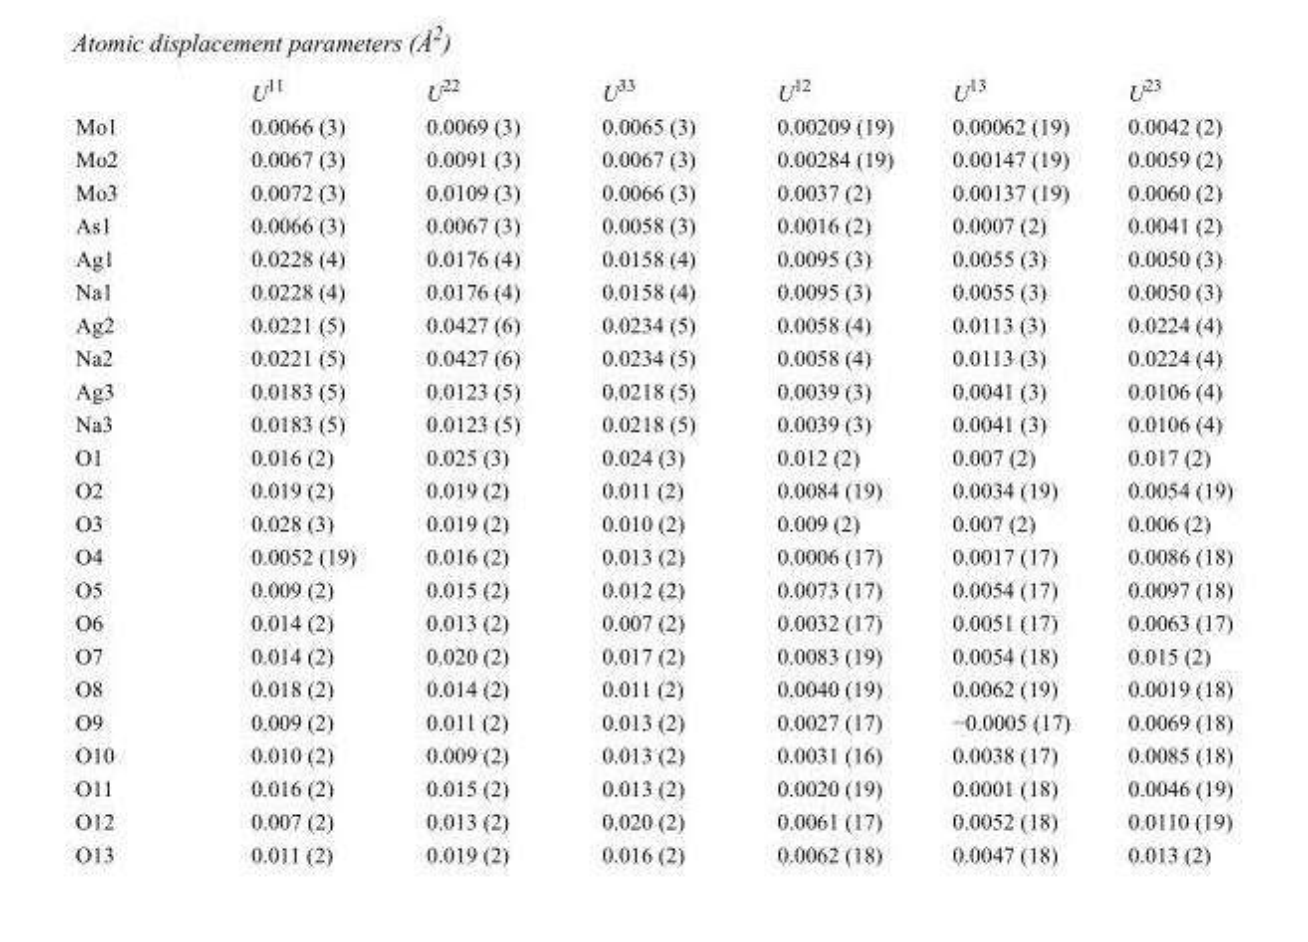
<table><thead><tr><td></td><td>U<sup>11</sup></td><td>U<sup>22</sup></td><td>U<sup>33</sup></td><td>U<sup>12</sup></td><td>U<sup>13</sup></td><td>U<sup>23</sup></td></tr></thead><tbody><tr><td>Mo1</td><td>0.0066 (3)</td><td>0.0069 (3)</td><td>0.0065 (3)</td><td>0.00209 (19)</td><td>0.00062 (19)</td><td>0.0042 (2)</td></tr><tr><td>Mo2</td><td>0.0067 (3)</td><td>0.0091 (3)</td><td>0.0067 (3)</td><td>0.00284 (19)</td><td>0.00147 (19)</td><td>0.0059 (2)</td></tr><tr><td>Mo3</td><td>0.0072 (3)</td><td>0.0109 (3)</td><td>0.0066 (3)</td><td>0.0037 (2)</td><td>0.00137 (19)</td><td>0.0060 (2)</td></tr><tr><td>As1</td><td>0.0066 (3)</td><td>0.0067 (3)</td><td>0.0058 (3)</td><td>0.0016 (2)</td><td>0.0007 (2)</td><td>0.0041 (2)</td></tr><tr><td>Ag1</td><td>0.0228 (4)</td><td>0.0176 (4)</td><td>0.0158 (4)</td><td>0.0095 (3)</td><td>0.0055 (3)</td><td>0.0050 (3)</td></tr><tr><td>Na1</td><td>0.0228 (4)</td><td>0.0176 (4)</td><td>0.0158 (4)</td><td>0.0095 (3)</td><td>0.0055 (3)</td><td>0.0050 (3)</td></tr><tr><td>Ag2</td><td>0.0221 (5)</td><td>0.0427 (6)</td><td>0.0234 (5)</td><td>0.0058 (4)</td><td>0.0113 (3)</td><td>0.0224 (4)</td></tr><tr><td>Na2</td><td>0.0221 (5)</td><td>0.0427 (6)</td><td>0.0234 (5)</td><td>0.0058 (4)</td><td>0.0113 (3)</td><td>0.0224 (4)</td></tr><tr><td>Ag3</td><td>0.0183 (5)</td><td>0.0123 (5)</td><td>0.0218 (5)</td><td>0.0039 (3)</td><td>0.0041 (3)</td><td>0.0106 (4)</td></tr><tr><td>Na3</td><td>0.0183 (5)</td><td>0.0123 (5)</td><td>0.0218 (5)</td><td>0.0039 (3)</td><td>0.0041 (3)</td><td>0.0106 (4)</td></tr><tr><td>O1</td><td>0.016 (2)</td><td>0.025 (3)</td><td>0.024 (3)</td><td>0.012 (2)</td><td>0.007 (2)</td><td>0.017 (2)</td></tr><tr><td>O2</td><td>0.019 (2)</td><td>0.019 (2)</td><td>0.011 (2)</td><td>0.0084 (19)</td><td>0.0034 (19)</td><td>0.0054 (19)</td></tr><tr><td>O3</td><td>0.028 (3)</td><td>0.019 (2)</td><td>0.010 (2)</td><td>0.009 (2)</td><td>0.007 (2)</td><td>0.006 (2)</td></tr><tr><td>O4</td><td>0.0052 (19)</td><td>0.016 (2)</td><td>0.013 (2)</td><td>0.0006 (17)</td><td>0.0017 (17)</td><td>0.0086 (18)</td></tr><tr><td>O5</td><td>0.009 (2)</td><td>0.015 (2)</td><td>0.012 (2)</td><td>0.0073 (17)</td><td>0.0054 (17)</td><td>0.0097 (18)</td></tr><tr><td>O6</td><td>0.014 (2)</td><td>0.013 (2)</td><td>0.007 (2)</td><td>0.0032 (17)</td><td>0.0051 (17)</td><td>0.0063 (17)</td></tr><tr><td>O7</td><td>0.014 (2)</td><td>0.020 (2)</td><td>0.017 (2)</td><td>0.0083 (19)</td><td>0.0054 (18)</td><td>0.015 (2)</td></tr><tr><td>O8</td><td>0.018 (2)</td><td>0.014 (2)</td><td>0.011 (2)</td><td>0.0040 (19)</td><td>0.0062 (19)</td><td>0.0019 (18)</td></tr><tr><td>O9</td><td>0.009 (2)</td><td>0.011 (2)</td><td>0.013 (2)</td><td>0.0027 (17)</td><td>−0.0005 (17)</td><td>0.0069 (18)</td></tr><tr><td>O10</td><td>0.010 (2)</td><td>0.009 (2)</td><td>0.013 (2)</td><td>0.0031 (16)</td><td>0.0038 (17)</td><td>0.0085 (18)</td></tr><tr><td>O11</td><td>0.016 (2)</td><td>0.015 (2)</td><td>0.013 (2)</td><td>0.0020 (19)</td><td>0.0001 (18)</td><td>0.0046 (19)</td></tr><tr><td>O12</td><td>0.007 (2)</td><td>0.013 (2)</td><td>0.020 (2)</td><td>0.0061 (17)</td><td>0.0052 (18)</td><td>0.0110 (19)</td></tr><tr><td>O13</td><td>0.011 (2)</td><td>0.019 (2)</td><td>0.016 (2)</td><td>0.0062 (18)</td><td>0.0047 (18)</td><td>0.013 (2)</td></tr></tbody></table>